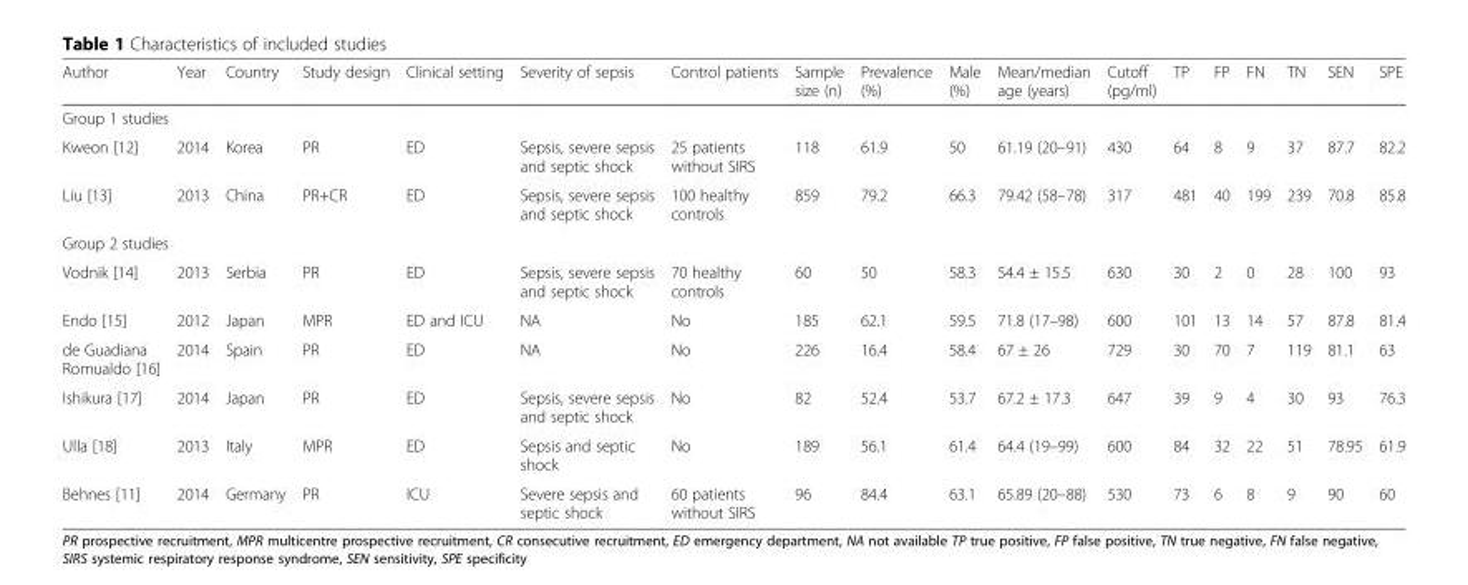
<table><thead><tr><td>Author</td><td>Year</td><td>Country</td><td>Study design</td><td>Clinical setting</td><td>Severity of sepsis</td><td>Control patients</td><td>Sample size (n)</td><td>Prevalence (%)</td><td>Male (%)</td><td>Mean/median age (years)</td><td>Cutoff (pg/ml)</td><td>TP</td><td>FP</td><td>FN</td><td>TN</td><td>SEN</td><td>SPE</td></tr></thead><tbody><tr><td colspan="18">Group 1 studies</td></tr><tr><td>Kweon [12]</td><td>2014</td><td>Korea</td><td>PR</td><td>ED</td><td>Sepsis, severe sepsis and septic shock</td><td>25 patients without SIRS</td><td>118</td><td>61.9</td><td>50</td><td>61.19 (20–91)</td><td>430</td><td>64</td><td>8</td><td>9</td><td>37</td><td>87.7</td><td>82.2</td></tr><tr><td>Liu [13]</td><td>2013</td><td>China</td><td>PR+CR</td><td>ED</td><td>Sepsis, severe sepsis and septic shock</td><td>100 healthy controls</td><td>859</td><td>79.2</td><td>66.3</td><td>79.42 (58–78)</td><td>317</td><td>481</td><td>40</td><td>199</td><td>239</td><td>70.8</td><td>85.8</td></tr><tr><td colspan="18">Group 2 studies</td></tr><tr><td>Vodnik [14]</td><td>2013</td><td>Serbia</td><td>PR</td><td>ED</td><td>Sepsis, severe sepsis and septic shock</td><td>70 healthy controls</td><td>60</td><td>50</td><td>58.3</td><td>54.4 ± 15.5</td><td>630</td><td>30</td><td>2</td><td>0</td><td>28</td><td>100</td><td>93</td></tr><tr><td>Endo [15]</td><td>2012</td><td>Japan</td><td>MPR</td><td>ED and ICU</td><td>NA</td><td>No</td><td>185</td><td>62.1</td><td>59.5</td><td>71.8 (17–98)</td><td>600</td><td>101</td><td>13</td><td>14</td><td>57</td><td>87.8</td><td>81.4</td></tr><tr><td>de Guadiana Romualdo [16]</td><td>2014</td><td>Spain</td><td>PR</td><td>ED</td><td>NA</td><td>No</td><td>226</td><td>16.4</td><td>58.4</td><td>67 ± 26</td><td>729</td><td>30</td><td>70</td><td>7</td><td>119</td><td>81.1</td><td>63</td></tr><tr><td>Ishikura [17]</td><td>2014</td><td>Japan</td><td>PR</td><td>ED</td><td>Sepsis, severe sepsis and septic shock</td><td>No</td><td>82</td><td>52.4</td><td>53.7</td><td>67.2 ± 17.3</td><td>647</td><td>39</td><td>9</td><td>4</td><td>30</td><td>93</td><td>76.3</td></tr><tr><td>Ulla [18]</td><td>2013</td><td>Italy</td><td>MPR</td><td>ED</td><td>Sepsis and septic shock</td><td>No</td><td>189</td><td>56.1</td><td>61.4</td><td>64.4 (19–99)</td><td>600</td><td>84</td><td>32</td><td>22</td><td>51</td><td>78.95</td><td>61.9</td></tr><tr><td>Behnes [11]</td><td>2014</td><td>Germany</td><td>PR</td><td>ICU</td><td>Severe sepsis and septic shock</td><td>60 patients without SIRS</td><td>96</td><td>84.4</td><td>63.1</td><td>65.89 (20–88)</td><td>530</td><td>73</td><td>6</td><td>8</td><td>9</td><td>90</td><td>60</td></tr></tbody></table>